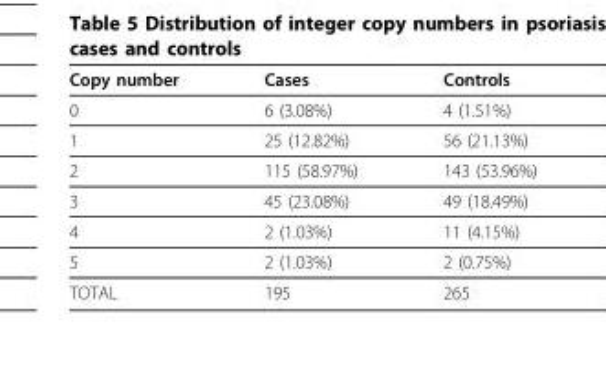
<table><thead><tr><td>Copy number</td><td>Cases</td><td>Controls</td></tr></thead><tbody><tr><td>0</td><td>6 (3.08%)</td><td>4 (1.51%)</td></tr><tr><td>1</td><td>25 (12.82%)</td><td>56 (21.13%)</td></tr><tr><td>2</td><td>115 (58.97%)</td><td>143 (53.96%)</td></tr><tr><td>3</td><td>45 (23.08%)</td><td>49 (18.49%)</td></tr><tr><td>4</td><td>2 (1.03%)</td><td>11 (4.15%)</td></tr><tr><td>5</td><td>2 (1.03%)</td><td>2 (0.75%)</td></tr><tr><td>TOTAL</td><td>195</td><td>265</td></tr></tbody></table>